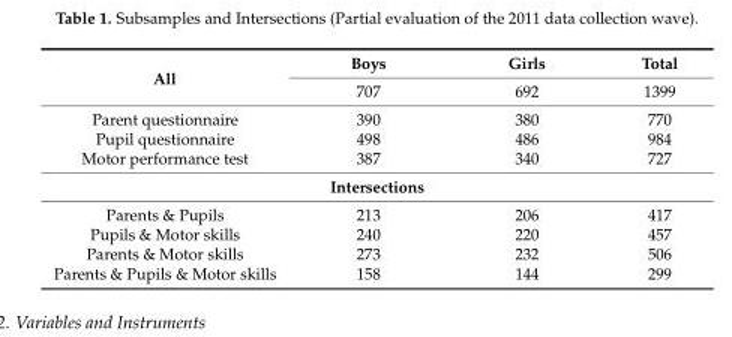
<table><tbody><tr><td rowspan="2">All</td><td>Boys</td><td>Girls</td><td>Total</td></tr><tr><td>707</td><td>692</td><td>1399</td></tr><tr><td>Parent questionnaire</td><td>390</td><td>380</td><td>770</td></tr><tr><td>Pupil questionnaire</td><td>498</td><td>486</td><td>984</td></tr><tr><td>Motor performance test</td><td>387</td><td>340</td><td>727</td></tr><tr><td colspan="4">Intersections</td></tr><tr><td>Parents &amp; Pupils</td><td>213</td><td>206</td><td>417</td></tr><tr><td>Pupils &amp; Motor skills</td><td>240</td><td>220</td><td>457</td></tr><tr><td>Parents &amp; Motor skills</td><td>273</td><td>232</td><td>506</td></tr><tr><td>Parents &amp; Pupils &amp; Motor skills</td><td>158</td><td>144</td><td>299</td></tr></tbody></table>